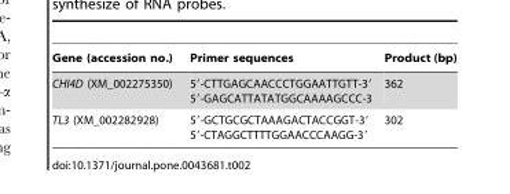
<table><thead><tr><td>Gene (accession no.)</td><td>Primer sequences</td><td>Product (bp)</td></tr></thead><tbody><tr><td>CHI4D (XM_002275350)</td><td>5′-CTTGAGCAACCCTGGAATTGTT-3′ 5′-GAGCATTATATGGCAAAAGCCC-3</td><td>362</td></tr><tr><td>TL3 (XM_002282928)</td><td>5′-GCTGCGCTAAAGACTACCGGT-3′ 5′-CTAGGCTTTTGGAACCCAAGG-3′</td><td>302</td></tr></tbody></table>